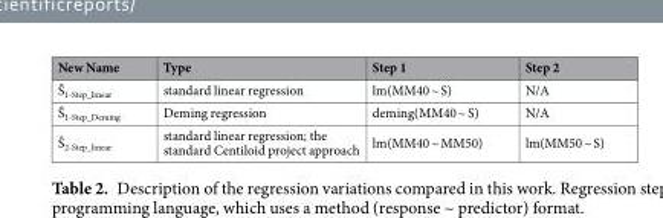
<table><thead><tr><td>New Name</td><td>Type</td><td>Step 1</td><td>Step 2</td></tr></thead><tbody><tr><td>Ŝ<sub>1-Step_linear</sub></td><td>standard linear regression</td><td>lm(MM40 ~ S)</td><td>N/A</td></tr><tr><td>Ŝ<sub>1-Step_Deming</sub></td><td>Deming regression</td><td>deming(MM40 ~ S)</td><td>N/A</td></tr><tr><td>Ŝ<sub>2-Step_linear</sub></td><td>standard linear regression; the standard Centiloid project approach</td><td>lm(MM40 ~ MM50)</td><td>lm(MM50 ~ S)</td></tr></tbody></table>